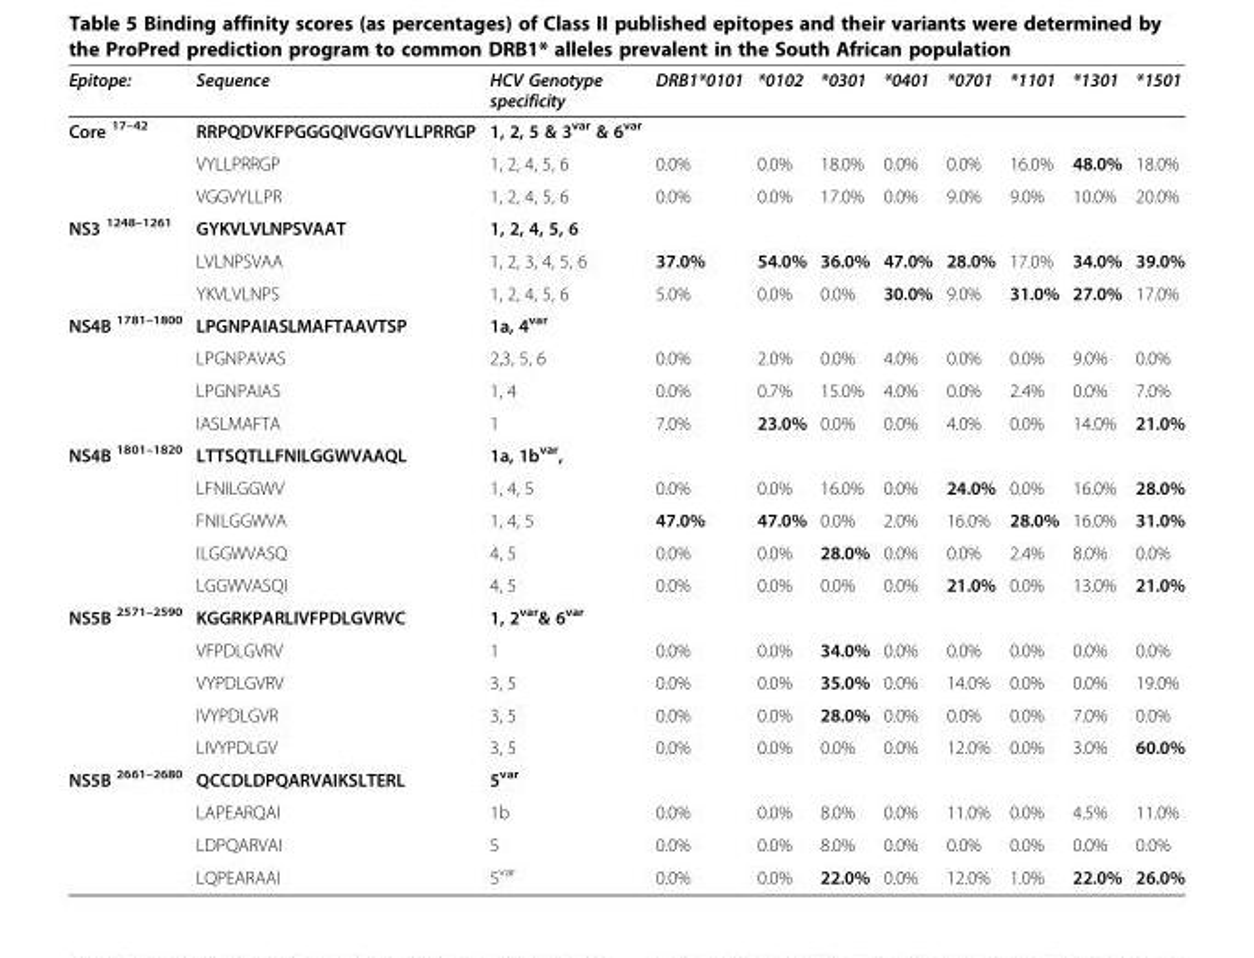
<table><thead><tr><td>Epitope:</td><td>Sequence</td><td>HCV Genotype specificity</td><td>DRB1*0101</td><td>*0102</td><td>*0301</td><td>*0401</td><td>*0701</td><td>*1101</td><td>*1301</td><td>*1501</td></tr></thead><tbody><tr><td rowspan="3">Core <sup>17–42</sup></td><td>RRPQDVKFPGGGQIVGGVYLLPRRGP</td><td>1, 2, 5 &amp; 3<sup>var</sup> &amp; 6<sup>var</sup></td><td></td><td></td><td></td><td></td><td></td><td></td><td></td><td></td></tr><tr><td>VYLLPRRGP</td><td>1, 2, 4, 5, 6</td><td>0.0%</td><td>0.0%</td><td>18.0%</td><td>0.0%</td><td>0.0%</td><td>16.0%</td><td>48.0%</td><td>18.0%</td></tr><tr><td>VGGVYLLPR</td><td>1, 2, 4, 5, 6</td><td>0.0%</td><td>0.0%</td><td>17.0%</td><td>0.0%</td><td>9.0%</td><td>9.0%</td><td>10.0%</td><td>20.0%</td></tr><tr><td rowspan="3">NS3 <sup>1248–1261</sup></td><td>GYKVLVLNPSVAAT</td><td>1, 2, 4, 5, 6</td><td></td><td></td><td></td><td></td><td></td><td></td><td></td><td></td></tr><tr><td>LVLNPSVAA</td><td>1, 2, 3, 4, 5, 6</td><td>37.0%</td><td>54.0%</td><td>36.0%</td><td>47.0%</td><td>28.0%</td><td>17.0%</td><td>34.0%</td><td>39.0%</td></tr><tr><td>YKVLVLNPS</td><td>1, 2, 4, 5, 6</td><td>5.0%</td><td>0.0%</td><td>0.0%</td><td>30.0%</td><td>9.0%</td><td>31.0%</td><td>27.0%</td><td>17.0%</td></tr><tr><td rowspan="4">NS4B <sup>1781–1800</sup></td><td>LPGNPAIASLMAFTAAVTSP</td><td>1a, 4<sup>var</sup></td><td></td><td></td><td></td><td></td><td></td><td></td><td></td><td></td></tr><tr><td>LPGNPAVAS</td><td>2,3, 5, 6</td><td>0.0%</td><td>2.0%</td><td>0.0%</td><td>4.0%</td><td>0.0%</td><td>0.0%</td><td>9.0%</td><td>0.0%</td></tr><tr><td>LPGNPAIAS</td><td>1, 4</td><td>0.0%</td><td>0.7%</td><td>15.0%</td><td>4.0%</td><td>0.0%</td><td>2.4%</td><td>0.0%</td><td>7.0%</td></tr><tr><td>IASLMAFTA</td><td>1</td><td>7.0%</td><td>23.0%</td><td>0.0%</td><td>0.0%</td><td>4.0%</td><td>0.0%</td><td>14.0%</td><td>21.0%</td></tr><tr><td rowspan="5">NS4B <sup>1801–1820</sup></td><td>LTTSQTLLFNILGGWVAAQL</td><td>1a, 1b<sup>var</sup>,</td><td></td><td></td><td></td><td></td><td></td><td></td><td></td><td></td></tr><tr><td>LFNILGGWV</td><td>1, 4, 5</td><td>0.0%</td><td>0.0%</td><td>16.0%</td><td>0.0%</td><td>24.0%</td><td>0.0%</td><td>16.0%</td><td>28.0%</td></tr><tr><td>FNILGGWVA</td><td>1, 4, 5</td><td>47.0%</td><td>47.0%</td><td>0.0%</td><td>2.0%</td><td>16.0%</td><td>28.0%</td><td>16.0%</td><td>31.0%</td></tr><tr><td>ILGGWVASQ</td><td>4, 5</td><td>0.0%</td><td>0.0%</td><td>28.0%</td><td>0.0%</td><td>0.0%</td><td>2.4%</td><td>8.0%</td><td>0.0%</td></tr><tr><td>LGGWVASQI</td><td>4, 5</td><td>0.0%</td><td>0.0%</td><td>0.0%</td><td>0.0%</td><td>21.0%</td><td>0.0%</td><td>13.0%</td><td>21.0%</td></tr><tr><td rowspan="5">NS5B <sup>2571–2590</sup></td><td>KGGRKPARLIVFPDLGVRVC</td><td>1, 2<sup>var</sup>&amp; 6<sup>var</sup></td><td></td><td></td><td></td><td></td><td></td><td></td><td></td><td></td></tr><tr><td>VFPDLGVRV</td><td>1</td><td>0.0%</td><td>0.0%</td><td>34.0%</td><td>0.0%</td><td>0.0%</td><td>0.0%</td><td>0.0%</td><td>0.0%</td></tr><tr><td>VYPDLGVRV</td><td>3, 5</td><td>0.0%</td><td>0.0%</td><td>35.0%</td><td>0.0%</td><td>14.0%</td><td>0.0%</td><td>0.0%</td><td>19.0%</td></tr><tr><td>IVYPDLGVR</td><td>3, 5</td><td>0.0%</td><td>0.0%</td><td>28.0%</td><td>0.0%</td><td>0.0%</td><td>0.0%</td><td>7.0%</td><td>0.0%</td></tr><tr><td>LIVYPDLGV</td><td>3, 5</td><td>0.0%</td><td>0.0%</td><td>0.0%</td><td>0.0%</td><td>12.0%</td><td>0.0%</td><td>3.0%</td><td>60.0%</td></tr><tr><td rowspan="4">NS5B <sup>2661–2680</sup></td><td>QCCDLDPQARVAIKSLTERL</td><td>5<sup>var</sup></td><td></td><td></td><td></td><td></td><td></td><td></td><td></td><td></td></tr><tr><td>LAPEARQAI</td><td>1b</td><td>0.0%</td><td>0.0%</td><td>8.0%</td><td>0.0%</td><td>11.0%</td><td>0.0%</td><td>4.5%</td><td>11.0%</td></tr><tr><td>LDPQARVAI</td><td>5</td><td>0.0%</td><td>0.0%</td><td>8.0%</td><td>0.0%</td><td>0.0%</td><td>0.0%</td><td>0.0%</td><td>0.0%</td></tr><tr><td>LQPEARAAI</td><td>5<sup>var</sup></td><td>0.0%</td><td>0.0%</td><td>22.0%</td><td>0.0%</td><td>12.0%</td><td>1.0%</td><td>22.0%</td><td>26.0%</td></tr></tbody></table>